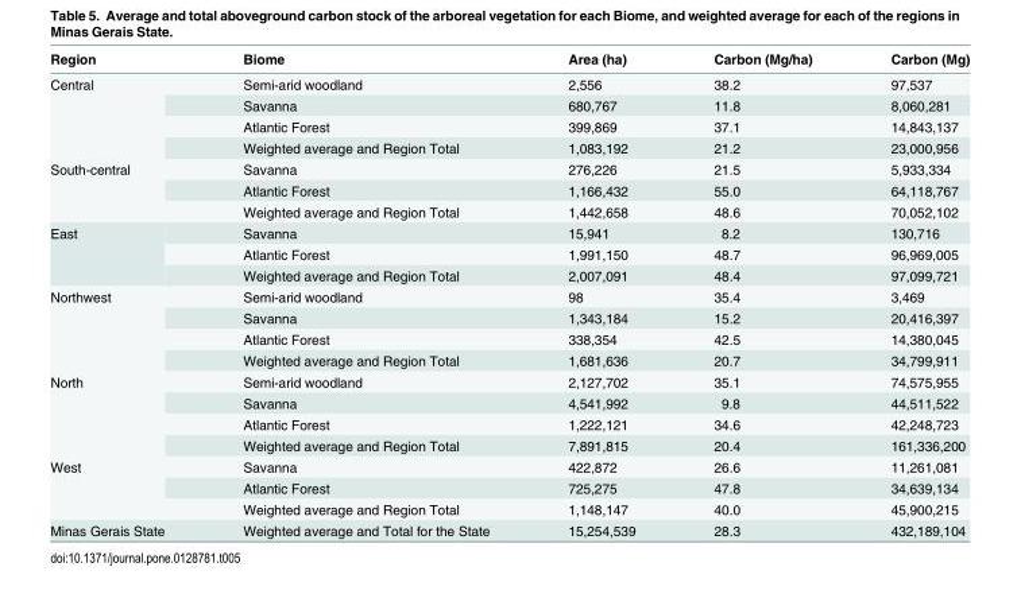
<table><thead><tr><td>Region</td><td>Biome</td><td>Area (ha)</td><td>Carbon (Mg/ha)</td><td>Carbon (Mg)</td></tr></thead><tbody><tr><td rowspan="4">Central</td><td>Semi-arid woodland</td><td>2,556</td><td>38.2</td><td>97,537</td></tr><tr><td>Savanna</td><td>680,767</td><td>11.8</td><td>8,060,281</td></tr><tr><td>Atlantic Forest</td><td>399,869</td><td>37.1</td><td>14,843,137</td></tr><tr><td>Weighted average and Region Total</td><td>1,083,192</td><td>21.2</td><td>23,000,956</td></tr><tr><td rowspan="3">South-central</td><td>Savanna</td><td>276,226</td><td>21.5</td><td>5,933,334</td></tr><tr><td>Atlantic Forest</td><td>1,166,432</td><td>55.0</td><td>64,118,767</td></tr><tr><td>Weighted average and Region Total</td><td>1,442,658</td><td>48.6</td><td>70,052,102</td></tr><tr><td rowspan="3">East</td><td>Savanna</td><td>15,941</td><td>8.2</td><td>130,716</td></tr><tr><td>Atlantic Forest</td><td>1,991,150</td><td>48.7</td><td>96,969,005</td></tr><tr><td>Weighted average and Region Total</td><td>2,007,091</td><td>48.4</td><td>97,099,721</td></tr><tr><td rowspan="4">Northwest</td><td>Semi-arid woodland</td><td>98</td><td>35.4</td><td>3,469</td></tr><tr><td>Savanna</td><td>1,343,184</td><td>15.2</td><td>20,416,397</td></tr><tr><td>Atlantic Forest</td><td>338,354</td><td>42.5</td><td>14,380,045</td></tr><tr><td>Weighted average and Region Total</td><td>1,681,636</td><td>20.7</td><td>34,799,911</td></tr><tr><td rowspan="4">North</td><td>Semi-arid woodland</td><td>2,127,702</td><td>35.1</td><td>74,575,955</td></tr><tr><td>Savanna</td><td>4,541,992</td><td>9.8</td><td>44,511,522</td></tr><tr><td>Atlantic Forest</td><td>1,222,121</td><td>34.6</td><td>42,248,723</td></tr><tr><td>Weighted average and Region Total</td><td>7,891,815</td><td>20.4</td><td>161,336,200</td></tr><tr><td rowspan="3">West</td><td>Savanna</td><td>422,872</td><td>26.6</td><td>11,261,081</td></tr><tr><td>Atlantic Forest</td><td>725,275</td><td>47.8</td><td>34,639,134</td></tr><tr><td>Weighted average and Region Total</td><td>1,148,147</td><td>40.0</td><td>45,900,215</td></tr><tr><td>Minas Gerais State</td><td>Weighted average and Total for the State</td><td>15,254,539</td><td>28.3</td><td>432,189,104</td></tr></tbody></table>